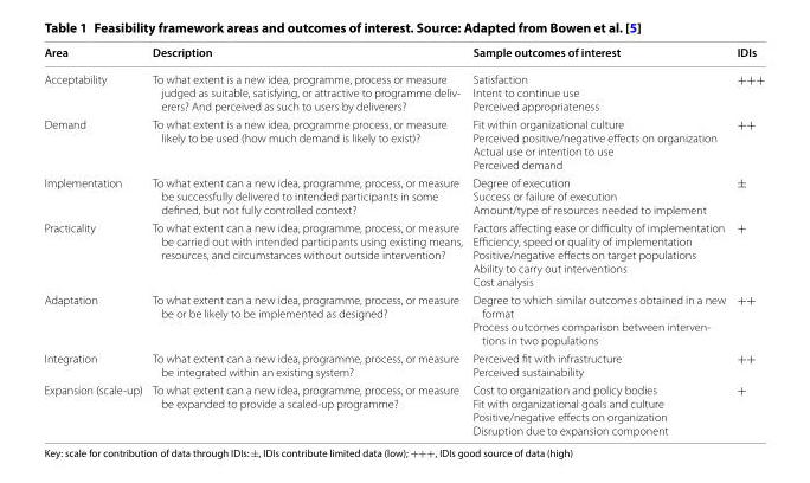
<table><thead><tr><td>Area</td><td>Description</td><td>Sample outcomes of interest</td><td>IDIs</td></tr></thead><tbody><tr><td>Acceptability</td><td>To what extent is a new idea, programme, process or measure judged as suitable, satisfying, or attractive to programme deliv- erers? And perceived as such to users by deliverers?</td><td>Satisfaction Intent to continue use Perceived appropriateness</td><td>+++</td></tr><tr><td>Demand</td><td>To what extent is a new idea, programme process, or measure likely to be used (how much demand is likely to exist)?</td><td>Fit within organizational culture Perceived positive/negative effects on organization Actual use or intention to use Perceived demand</td><td>++</td></tr><tr><td>Implementation</td><td>To what extent can a new idea, programme, process, or measure be successfully delivered to intended participants in some defined, but not fully controlled context?</td><td>Degree of execution Success or failure of execution Amount/type of resources needed to implement</td><td>±</td></tr><tr><td>Practicality</td><td>To what extent can a new idea, programme, process, or measure be carried out with intended participants using existing means, resources, and circumstances without outside intervention?</td><td>Factors affecting ease or difficulty of implementation Efficiency, speed or quality of implementation Positive/negative effects on target populations Ability to carry out interventions Cost analysis</td><td>+</td></tr><tr><td>Adaptation</td><td>To what extent can a new idea, programme, process, or measure be or be likely to be implemented as designed?</td><td>Degree to which similar outcomes obtained in a new format Process outcomes comparison between interven- tions in two populations</td><td>++</td></tr><tr><td>Integration</td><td>To what extent can a new idea, programme, process, or measure be integrated within an existing system?</td><td>Perceived fit with infrastructure Perceived sustainability</td><td>++</td></tr><tr><td>Expansion (scale-up)</td><td>To what extent can a new idea, programme, process, or measure be expanded to provide a scaled-up programme?</td><td>Cost to organization and policy bodies Fit with organizational goals and culture Positive/negative effects on organization Disruption due to expansion component</td><td>+</td></tr></tbody></table>